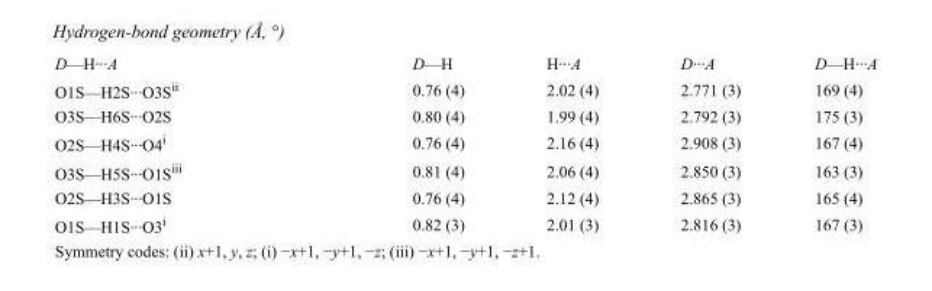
<table><tbody><tr><td>D—H···A</td><td>D—H</td><td>H···A</td><td>D···A</td><td>D—H···A</td></tr><tr><td>O1S—H2S···O3S<sup>ii</sup></td><td>0.76 (4)</td><td>2.02 (4)</td><td>2.771 (3)</td><td>169 (4)</td></tr><tr><td>O3S—H6S···O2S</td><td>0.80 (4)</td><td>1.99 (4)</td><td>2.792 (3)</td><td>175 (3)</td></tr><tr><td>O2S—H4S···O4<sup>i</sup></td><td>0.76 (4)</td><td>2.16 (4)</td><td>2.908 (3)</td><td>167 (4)</td></tr><tr><td>O3S—H5S···O1S<sup>iii</sup></td><td>0.81 (4)</td><td>2.06 (4)</td><td>2.850 (3)</td><td>163 (3)</td></tr><tr><td>O2S—H3S···O1S</td><td>0.76 (4)</td><td>2.12 (4)</td><td>2.865 (3)</td><td>165 (4)</td></tr><tr><td>O1S—H1S···O3<sup>i</sup></td><td>0.82 (3)</td><td>2.01 (3)</td><td>2.816 (3)</td><td>167 (3)</td></tr></tbody></table>